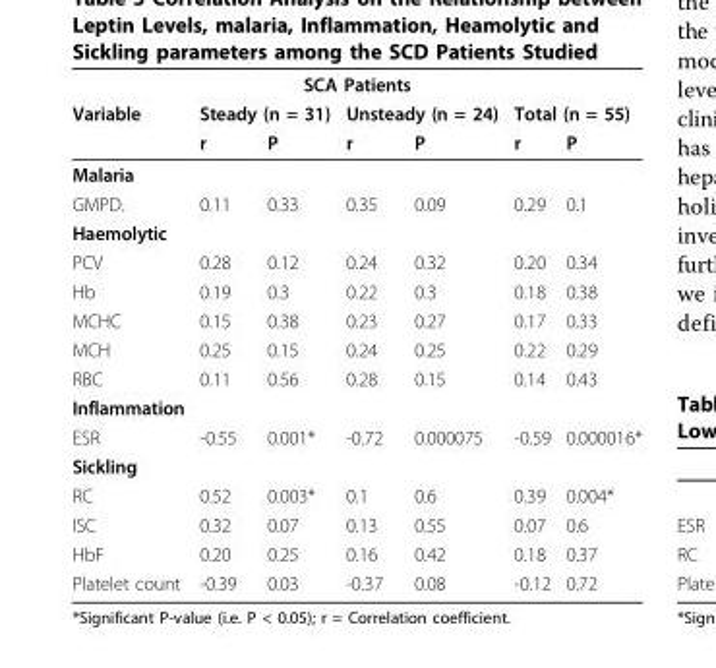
<table><thead><tr><td colspan="7">SCA Patients</td></tr><tr><td rowspan="2">Variable</td><td colspan="2">Steady (n = 31)</td><td colspan="2">Unsteady (n = 24)</td><td colspan="2">Total (n = 55)</td></tr><tr><td>r</td><td>P</td><td>r</td><td>P</td><td>r</td><td>P</td></tr></thead><tbody><tr><td colspan="7">Malaria</td></tr><tr><td>GMPD.</td><td>0.11</td><td>0.33</td><td>0.35</td><td>0.09</td><td>0.29</td><td>0.1</td></tr><tr><td colspan="7">Haemolytic</td></tr><tr><td>PCV</td><td>0.28</td><td>0.12</td><td>0.24</td><td>0.32</td><td>0.20</td><td>0.34</td></tr><tr><td>Hb</td><td>0.19</td><td>0.3</td><td>0.22</td><td>0.3</td><td>0.18</td><td>0.38</td></tr><tr><td>MCHC</td><td>0.15</td><td>0.38</td><td>0.23</td><td>0.27</td><td>0.17</td><td>0.33</td></tr><tr><td>MCH</td><td>0.25</td><td>0.15</td><td>0.24</td><td>0.25</td><td>0.22</td><td>0.29</td></tr><tr><td>RBC</td><td>0.11</td><td>0.56</td><td>0.28</td><td>0.15</td><td>0.14</td><td>0.43</td></tr><tr><td colspan="7">Inflammation</td></tr><tr><td>ESR</td><td>-0.55</td><td>0.001*</td><td>-0.72</td><td>0.000075</td><td>-0.59</td><td>0.000016*</td></tr><tr><td colspan="7">Sickling</td></tr><tr><td>RC</td><td>0.52</td><td>0.003*</td><td>0.1</td><td>0.6</td><td>0.39</td><td>0.004*</td></tr><tr><td>ISC</td><td>0.32</td><td>0.07</td><td>0.13</td><td>0.55</td><td>0.07</td><td>0.6</td></tr><tr><td>HbF</td><td>0.20</td><td>0.25</td><td>0.16</td><td>0.42</td><td>0.18</td><td>0.37</td></tr><tr><td>Platelet count</td><td>-0.39</td><td>0.03</td><td>-0.37</td><td>0.08</td><td>-0.12</td><td>0.72</td></tr></tbody></table>